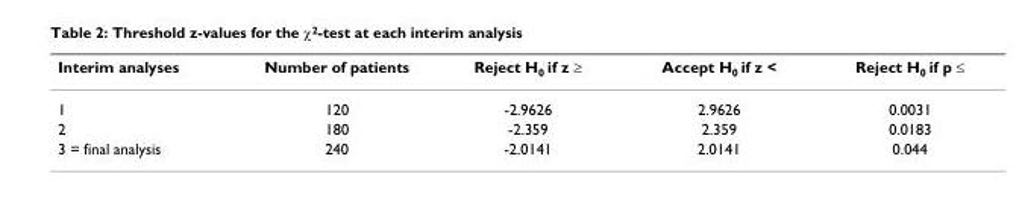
<table><thead><tr><td>Interim analyses</td><td>Number of patients</td><td>Reject H<sub>0</sub> if z ≥</td><td>Accept H<sub>0</sub> if z &lt;</td><td>Reject H<sub>0</sub> if p ≤</td></tr></thead><tbody><tr><td>1</td><td>120</td><td>-2.9626</td><td>2.9626</td><td>0.0031</td></tr><tr><td>2</td><td>180</td><td>-2.359</td><td>2.359</td><td>0.0183</td></tr><tr><td>3 = final analysis</td><td>240</td><td>-2.0141</td><td>2.0141</td><td>0.044</td></tr></tbody></table>